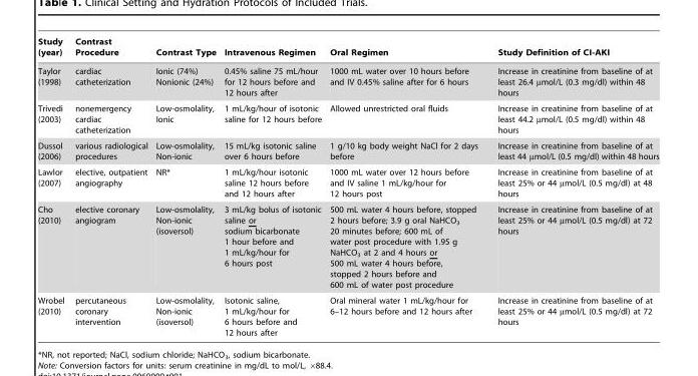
<table><thead><tr><td>Study (year)</td><td>Contrast Procedure</td><td>Contrast Type</td><td>Intravenous Regimen</td><td>Oral Regimen</td><td>Study Definition of CI-AKI</td></tr></thead><tbody><tr><td>Taylor (1998)</td><td>cardiac catheterization</td><td>Ionic (74%) Nonionic (24%)</td><td>0.45% saline 75 mL/hour for 12 hours before and 12 hours after</td><td>1000 mL water over 10 hours before and IV 0.45% saline after for 6 hours</td><td>Increase in creatinine from baseline of at least 26.4 µmol/L (0.3 mg/dl) within 48 hours</td></tr><tr><td>Trivedi (2003)</td><td>nonemergency cardiac catheterization</td><td>Low-osmolality, Ionic</td><td>1 mL/kg/hour of isotonic saline for 12 hours before</td><td>Allowed unrestricted oral fluids</td><td>Increase in creatinine from baseline of at least 44.2 µmol/L (0.5 mg/dl) within 48 hours</td></tr><tr><td>Dussol (2006)</td><td>various radiological procedures</td><td>Low-osmolality, Non-ionic</td><td>15 mL/kg isotonic saline over 6 hours before</td><td>1 g/10 kg body weight NaCl for 2 days before</td><td>Increase in creatinine from baseline of at least 44 µmol/L (0.5 mg/dl) within 48 hours</td></tr><tr><td>Lawlor (2007)</td><td>elective, outpatient angiography</td><td>NR*</td><td>1 mL/kg/hour isotonic saline 12 hours before and 12 hours after</td><td>1000 mL water over 12 hours before and IV saline 1 mL/kg/hour for 12 hours post</td><td>Increase in creatinine from baseline of at least 25% or 44 µmol/L (0.5 mg/dl) at 48 hours</td></tr><tr><td>Cho (2010)</td><td>elective coronary angiogram</td><td>Low-osmolality, Non-ionic (isoversol)</td><td>3 mL/kg bolus of isotonic saline or sodium bicarbonate 1 hour before and 1 mL/kg/hour for 6 hours post</td><td>500 mL water 4 hours before, stopped 2 hours before; 3.9 g oral NaHCO<sub>3</sub> 20 minutes before; 600 mL of water post procedure with 1.95 g NaHCO<sub>3</sub> at 2 and 4 hours or 500 mL water 4 hours before, stopped 2 hours before and 600 mL of water post procedure</td><td>Increase in creatinine from baseline of at least 25% or 44 µmol/L (0.5 mg/dl) at 72 hours</td></tr><tr><td>Wrobel (2010)</td><td>percutaneous coronary intervention</td><td>Low-osmolality, Non-ionic (isoversol)</td><td>Isotonic saline, 1 mL/kg/hour for 6 hours before and 12 hours after</td><td>Oral mineral water 1 mL/kg/hour for 6–12 hours before and 12 hours after</td><td>Increase in creatinine from baseline of at least 25% or 44 µmol/L (0.5 mg/dl) at 72 hours</td></tr></tbody></table>